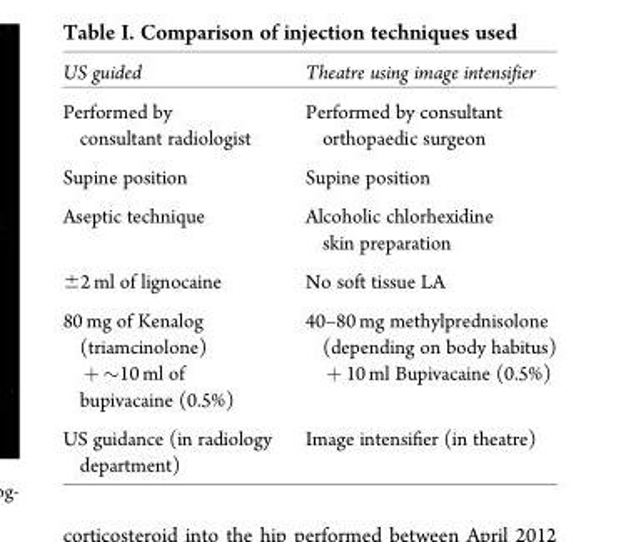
<table><thead><tr><td>US guided</td><td>Theatre using image intensifier</td></tr></thead><tbody><tr><td>Performed by consultant radiologist</td><td>Performed by consultant orthopaedic surgeon</td></tr><tr><td>Supine position</td><td>Supine position</td></tr><tr><td>Aseptic technique</td><td>Alcoholic chlorhexidine skin preparation</td></tr><tr><td>±2 ml of lignocaine</td><td>No soft tissue LA</td></tr><tr><td>80 mg of Kenalog (triamcinolone) + ∼10 ml of bupivacaine (0.5%)</td><td>40–80 mg methylprednisolone (depending on body habitus) + 10 ml Bupivacaine (0.5%)</td></tr><tr><td>US guidance (in radiology department)</td><td>Image intensifier (in theatre)</td></tr></tbody></table>